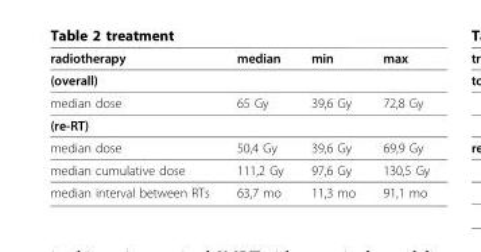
<table><thead><tr><td>radiotherapy</td><td>median</td><td>min</td><td>max</td></tr></thead><tbody><tr><td colspan="4">(overall)</td></tr><tr><td>median dose</td><td>65 Gy</td><td>39,6 Gy</td><td>72,8 Gy</td></tr><tr><td colspan="4">(re-RT)</td></tr><tr><td>median dose</td><td>50,4 Gy</td><td>39,6 Gy</td><td>69,9 Gy</td></tr><tr><td>median cumulative dose</td><td>111,2 Gy</td><td>97,6 Gy</td><td>130,5 Gy</td></tr><tr><td>median interval between RTs</td><td>63,7 mo</td><td>11,3 mo</td><td>91,1 mo</td></tr></tbody></table>